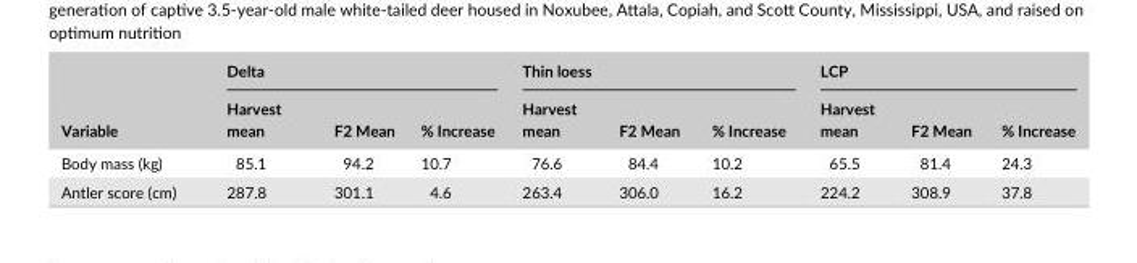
<table><thead><tr><td rowspan="2">Variable</td><td colspan="3">Delta</td><td colspan="3">Thin loess</td><td colspan="3">LCP</td></tr><tr><td>Harvest mean</td><td>F2 Mean</td><td>% Increase</td><td>Harvest mean</td><td>F2 Mean</td><td>% Increase</td><td>Harvest mean</td><td>F2 Mean</td><td>% Increase</td></tr></thead><tbody><tr><td>Body mass (kg)</td><td>85.1</td><td>94.2</td><td>10.7</td><td>76.6</td><td>84.4</td><td>10.2</td><td>65.5</td><td>81.4</td><td>24.3</td></tr><tr><td>Antler score (cm)</td><td>287.8</td><td>301.1</td><td>4.6</td><td>263.4</td><td>306.0</td><td>16.2</td><td>224.2</td><td>308.9</td><td>37.8</td></tr></tbody></table>